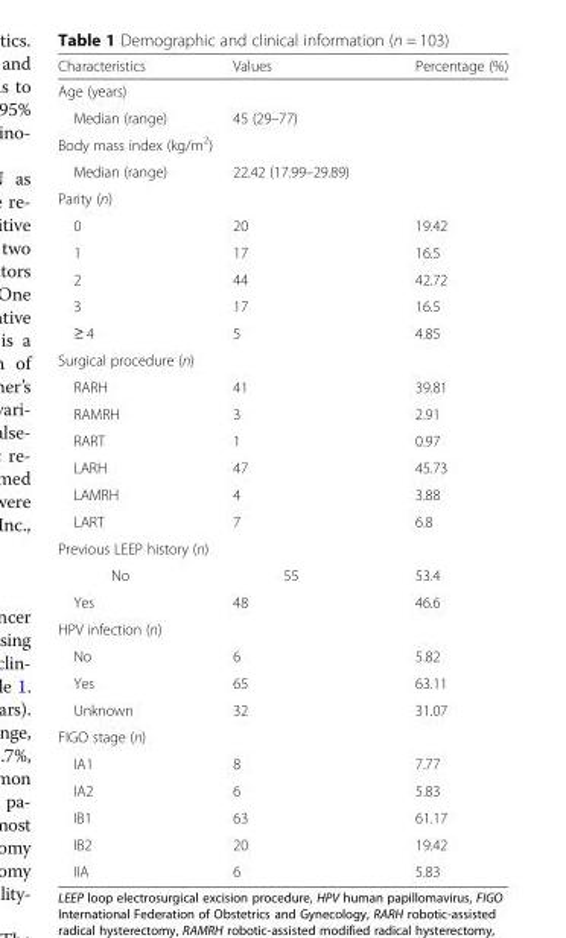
<table><thead><tr><td>Characteristics</td><td>Values</td><td>Percentage (%)</td></tr></thead><tbody><tr><td colspan="3">Age (years)</td></tr><tr><td>Median (range)</td><td>45 (29–77)</td><td></td></tr><tr><td colspan="3">Body mass index (kg/m<sup>2</sup>)</td></tr><tr><td>Median (range)</td><td>22.42 (17.99–29.89)</td><td></td></tr><tr><td colspan="3">Parity (n)</td></tr><tr><td>0</td><td>20</td><td>19.42</td></tr><tr><td>1</td><td>17</td><td>16.5</td></tr><tr><td>2</td><td>44</td><td>42.72</td></tr><tr><td>3</td><td>17</td><td>16.5</td></tr><tr><td>≥ 4</td><td>5</td><td>4.85</td></tr><tr><td colspan="3">Surgical procedure (n)</td></tr><tr><td>RARH</td><td>41</td><td>39.81</td></tr><tr><td>RAMRH</td><td>3</td><td>2.91</td></tr><tr><td>RART</td><td>1</td><td>0.97</td></tr><tr><td>LARH</td><td>47</td><td>45.73</td></tr><tr><td>LAMRH</td><td>4</td><td>3.88</td></tr><tr><td>LART</td><td>7</td><td>6.8</td></tr><tr><td colspan="3">Previous LEEP history (n)</td></tr><tr><td>No</td><td>55</td><td>53.4</td></tr><tr><td>Yes</td><td>48</td><td>46.6</td></tr><tr><td colspan="3">HPV infection (n)</td></tr><tr><td>No</td><td>6</td><td>5.82</td></tr><tr><td>Yes</td><td>65</td><td>63.11</td></tr><tr><td>Unknown</td><td>32</td><td>31.07</td></tr><tr><td colspan="3">FIGO stage (n)</td></tr><tr><td>IA1</td><td>8</td><td>7.77</td></tr><tr><td>IA2</td><td>6</td><td>5.83</td></tr><tr><td>IB1</td><td>63</td><td>61.17</td></tr><tr><td>IB2</td><td>20</td><td>19.42</td></tr><tr><td>IIA</td><td>6</td><td>5.83</td></tr></tbody></table>